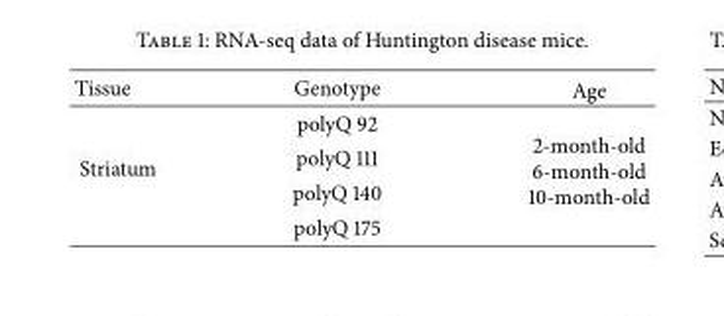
<table><thead><tr><td>Tissue</td><td>Genotype</td><td>Age</td></tr></thead><tbody><tr><td rowspan="4">Striatum</td><td>polyQ 92</td><td rowspan="4">2-month-old 6-month-old 10-month-old</td></tr><tr><td>polyQ 111</td></tr><tr><td>polyQ 140</td></tr><tr><td>polyQ 175</td></tr></tbody></table>